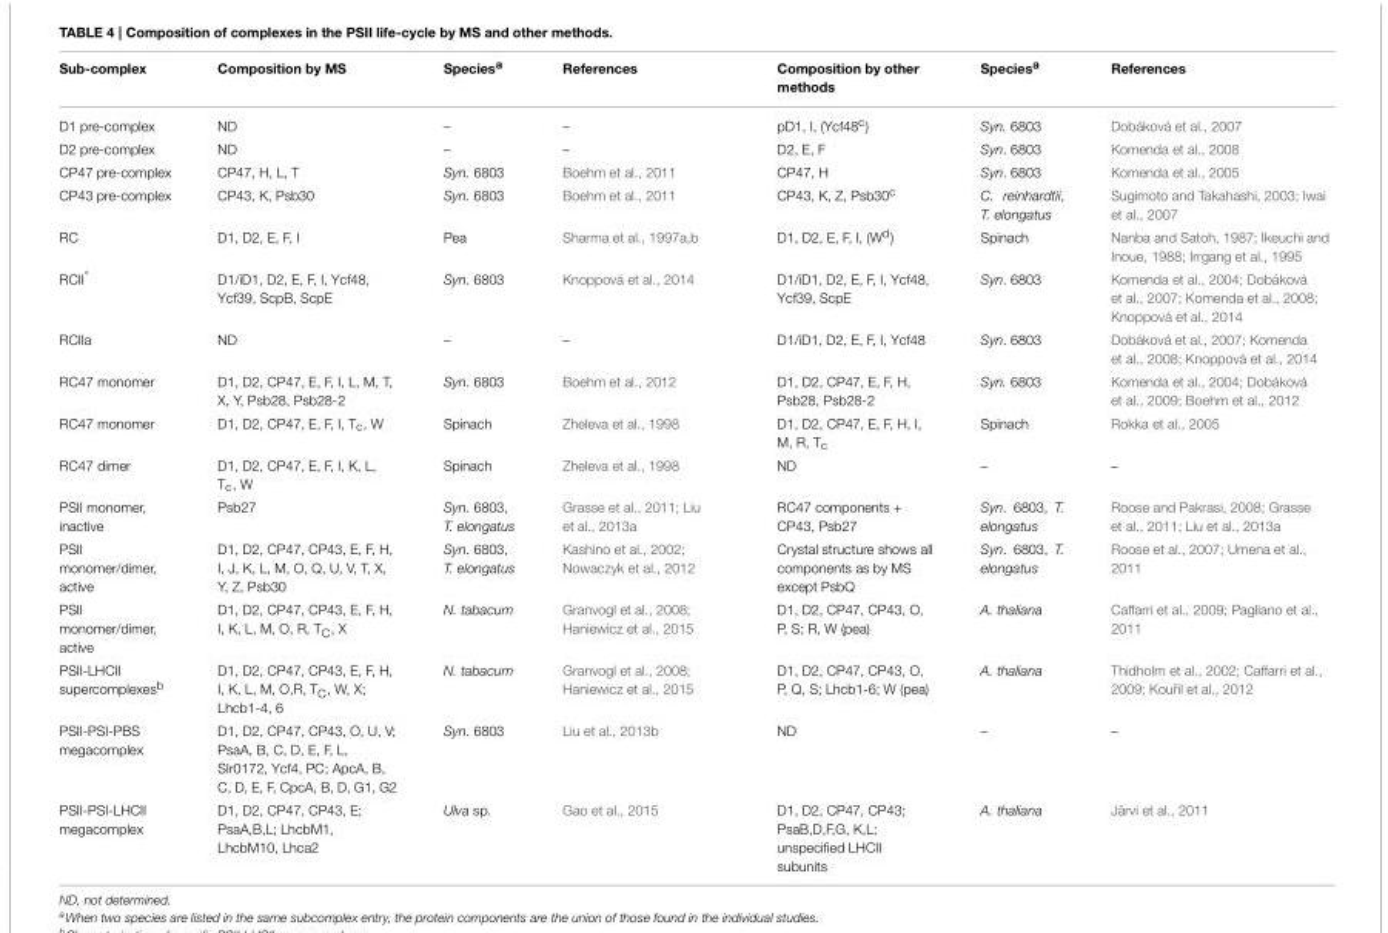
<table><thead><tr><td>Sub-complex</td><td>Composition by MS</td><td>Species<sup>a</sup></td><td>References</td><td>Composition by other methods</td><td>Species<sup>a</sup></td><td>References</td></tr></thead><tbody><tr><td>D1 pre-complex</td><td>ND</td><td>–</td><td>–</td><td>pD1, I, (Ycf48<sup>c</sup>)</td><td>Syn. 6803</td><td>Dobáková et al., 2007</td></tr><tr><td>D2 pre-complex</td><td>ND</td><td>–</td><td>–</td><td>D2, E, F</td><td>Syn. 6803</td><td>Komenda et al., 2008</td></tr><tr><td>CP47 pre-complex</td><td>CP47, H, L, T</td><td>Syn. 6803</td><td>Boehm et al., 2011</td><td>CP47, H</td><td>Syn. 6803</td><td>Komenda et al., 2005</td></tr><tr><td>CP43 pre-complex</td><td>CP43, K, Psb30</td><td>Syn. 6803</td><td>Boehm et al., 2011</td><td>CP43, K, Z, Psb30<sup>c</sup></td><td>C. reinhardtii, T. elongatus</td><td>Sugimoto and Takahashi, 2003; Iwai et al., 2007</td></tr><tr><td>RC</td><td>D1, D2, E, F, I</td><td>Pea</td><td>Sharma et al., 1997a,b</td><td>D1, D2, E, F, I, (W<sup>d</sup>)</td><td>Spinach</td><td>Nanba and Satoh, 1987; Ikeuchi and Inoue, 1988; Irrgang et al., 1995</td></tr><tr><td>RCII*</td><td>D1/iD1, D2, E, F, I, Ycf48, Ycf39, ScpB, ScpE</td><td>Syn. 6803</td><td>Knoppová et al., 2014</td><td>D1/iD1, D2, E, F, I, Ycf48, Ycf39, ScpE</td><td>Syn. 6803</td><td>Komenda et al., 2004; Dobáková et al., 2007; Komenda et al., 2008; Knoppová et al., 2014</td></tr><tr><td>RCIIa</td><td>ND</td><td>–</td><td>–</td><td>D1/iD1, D2, E, F, I, Ycf48</td><td>Syn. 6803</td><td>Dobáková et al., 2007; Komenda et al., 2008; Knoppová et al., 2014</td></tr><tr><td>RC47 monomer</td><td>D1, D2, CP47, E, F, I, L, M, T, X, Y, Psb28, Psb28-2</td><td>Syn. 6803</td><td>Boehm et al., 2012</td><td>D1, D2, CP47, E, F, H, Psb28, Psb28-2</td><td>Syn. 6803</td><td>Komenda et al., 2004; Dobáková et al., 2009; Boehm et al., 2012</td></tr><tr><td>RC47 monomer</td><td>D1, D2, CP47, E, F, I, T<sub>c</sub>, W</td><td>Spinach</td><td>Zheleva et al., 1998</td><td>D1, D2, CP47, E, F, H, I, M, R, T<sub>c</sub></td><td>Spinach</td><td>Rokka et al., 2005</td></tr><tr><td>RC47 dimer</td><td>D1, D2, CP47, E, F, I, K, L, T<sub>c</sub>, W</td><td>Spinach</td><td>Zheleva et al., 1998</td><td>ND</td><td>–</td><td>–</td></tr><tr><td>PSII monomer, inactive</td><td>Psb27</td><td>Syn. 6803, T. elongatus</td><td>Grasse et al., 2011; Liu et al., 2013a</td><td>RC47 components + CP43, Psb27</td><td>Syn. 6803, T. elongatus</td><td>Roose and Pakrasi, 2008; Grasse et al., 2011; Liu et al., 2013a</td></tr><tr><td>PSII monomer/dimer, active</td><td>D1, D2, CP47, CP43, E, F, H, I, J, K, L, M, O, Q, U, V, T, X, Y, Z, Psb30</td><td>Syn. 6803, T. elongatus</td><td>Kashino et al., 2002; Nowaczyk et al., 2012</td><td>Crystal structure shows all components as by MS except PsbQ</td><td>Syn. 6803, T. elongatus</td><td>Roose et al., 2007; Umena et al., 2011</td></tr><tr><td>PSII monomer/dimer, active</td><td>D1, D2, CP47, CP43, E, F, H, I, K, L, M, O, R, T<sub>C</sub>, X</td><td>N. tabacum</td><td>Granvogl et al., 2008; Haniewicz et al., 2015</td><td>D1, D2, CP47, CP43, O, P, S; R, W (pea)</td><td>A. thaliana</td><td>Caffarri et al., 2009; Pagliano et al., 2011</td></tr><tr><td>PSII-LHCII supercomplexes<sup>b</sup></td><td>D1, D2, CP47, CP43, E, F, H, I, K, L, M, O,R, T<sub>C</sub>, W, X; Lhcb1-4, 6</td><td>N. tabacum</td><td>Granvogl et al., 2008; Haniewicz et al., 2015</td><td>D1, D2, CP47, CP43, O, P, Q, S; Lhcb1-6; W (pea)</td><td>A. thaliana</td><td>Thidholm et al., 2002; Caffarri et al., 2009; Kouˇril et al., 2012</td></tr><tr><td>PSII-PSI-PBS megacomplex</td><td>D1, D2, CP47, CP43, O, U, V; PsaA, B, C, D, E, F, L, Slr0172, Ycf4, PC; ApcA, B, C, D, E, F, CpcA, B, D, G1, G2</td><td>Syn. 6803</td><td>Liu et al., 2013b</td><td>ND</td><td>–</td><td>–</td></tr><tr><td>PSII-PSI-LHCII megacomplex</td><td>D1, D2, CP47, CP43, E; PsaA,B,L; LhcbM1, LhcbM10, Lhca2</td><td>Ulva sp.</td><td>Gao et al., 2015</td><td>D1, D2, CP47, CP43; PsaB,D,F,G, K,L; unspecified LHCII subunits</td><td>A. thaliana</td><td>Järvi et al., 2011</td></tr></tbody></table>